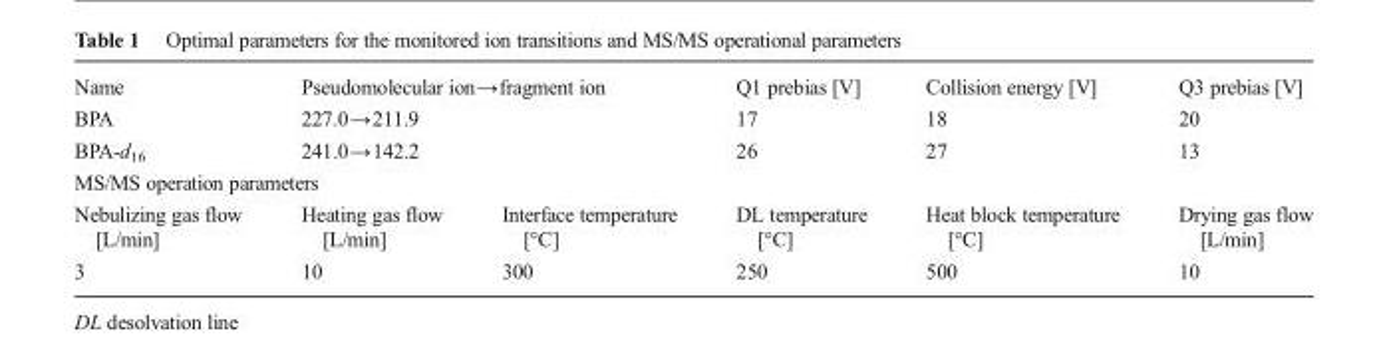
<table><tbody><tr><td>Name</td><td colspan="2">Pseudomolecular ion→fragment ion</td><td>Q1 prebias [V]</td><td>Collision energy [V]</td><td>Q3 prebias [V]</td></tr><tr><td>BPA</td><td colspan="2">227.0→211.9</td><td>17</td><td>18</td><td>20</td></tr><tr><td>BPA-d<sub>16</sub></td><td colspan="2">241.0→142.2</td><td>26</td><td>27</td><td>13</td></tr><tr><td colspan="6">MS/MS operation parameters</td></tr><tr><td>Nebulizing gas flow [L/min]</td><td>Heating gas flow [L/min]</td><td>Interface temperature [°C]</td><td>DL temperature [°C]</td><td>Heat block temperature [°C]</td><td>Drying gas flow [L/min]</td></tr><tr><td>3</td><td>10</td><td>300</td><td>250</td><td>500</td><td>10</td></tr></tbody></table>